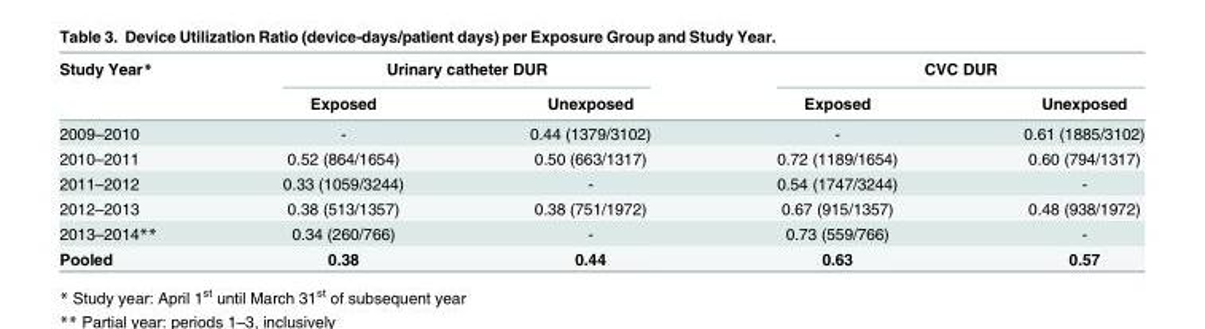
<table><thead><tr><td rowspan="2">Study Year*</td><td colspan="2">Urinary catheter DUR</td><td colspan="2">CVC DUR</td></tr><tr><td>Exposed</td><td>Unexposed</td><td>Exposed</td><td>Unexposed</td></tr></thead><tbody><tr><td>2009–2010</td><td>-</td><td>0.44 (1379/3102)</td><td>-</td><td>0.61 (1885/3102)</td></tr><tr><td>2010–2011</td><td>0.52 (864/1654)</td><td>0.50 (663/1317)</td><td>0.72 (1189/1654)</td><td>0.60 (794/1317)</td></tr><tr><td>2011–2012</td><td>0.33 (1059/3244)</td><td>-</td><td>0.54 (1747/3244)</td><td>-</td></tr><tr><td>2012–2013</td><td>0.38 (513/1357)</td><td>0.38 (751/1972)</td><td>0.67 (915/1357)</td><td>0.48 (938/1972)</td></tr><tr><td>2013–2014**</td><td>0.34 (260/766)</td><td>-</td><td>0.73 (559/766)</td><td>-</td></tr><tr><td>Pooled</td><td>0.38</td><td>0.44</td><td>0.63</td><td>0.57</td></tr></tbody></table>